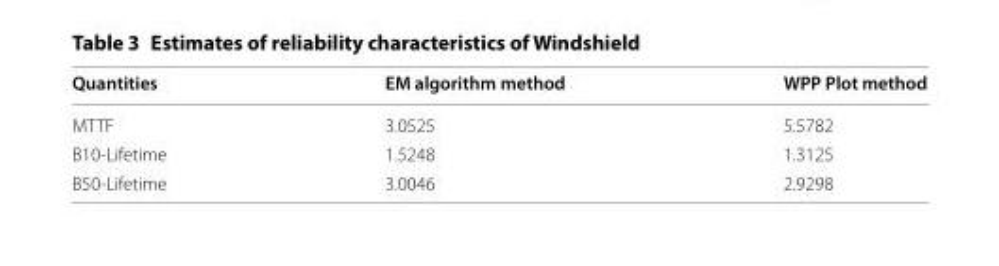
<table><thead><tr><td>Quantities</td><td>EM algorithm method</td><td>WPP Plot method</td></tr></thead><tbody><tr><td>MTTF</td><td>3.0525</td><td>5.5782</td></tr><tr><td>B10-Lifetime</td><td>1.5248</td><td>1.3125</td></tr><tr><td>B50-Lifetime</td><td>3.0046</td><td>2.9298</td></tr></tbody></table>